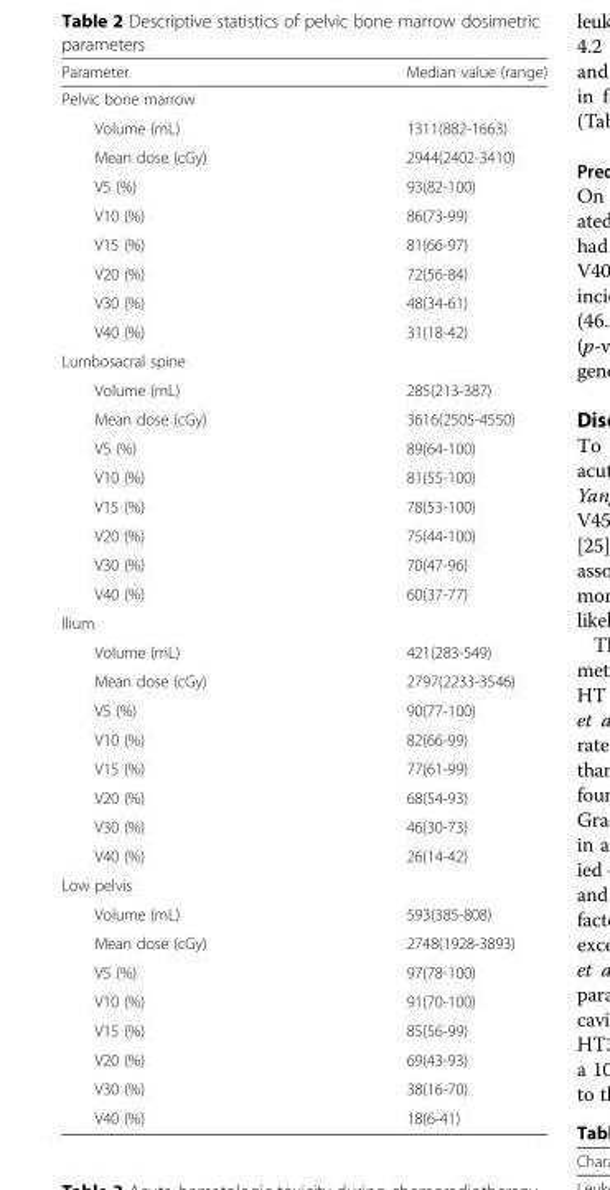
<table><tbody><tr><td>Parameter</td><td>Median value (range)</td></tr><tr><td colspan="2">Pelvic bone marrow</td></tr><tr><td>Volume (mL)</td><td>1311(882-1663)</td></tr><tr><td>Mean dose (cGy)</td><td>2944(2402-3410)</td></tr><tr><td>V5 (%)</td><td>93(82-100)</td></tr><tr><td>V10 (%)</td><td>86(73-99)</td></tr><tr><td>V15 (%)</td><td>81(66-97)</td></tr><tr><td>V20 (%)</td><td>72(56-84)</td></tr><tr><td>V30 (%)</td><td>48(34-61)</td></tr><tr><td>V40 (%)</td><td>31(18-42)</td></tr><tr><td colspan="2">Lumbosacral spine</td></tr><tr><td>Volume (mL)</td><td>285(213-387)</td></tr><tr><td>Mean dose (cGy)</td><td>3616(2505-4550)</td></tr><tr><td>V5 (%)</td><td>89(64-100)</td></tr><tr><td>V10 (%)</td><td>81(55-100)</td></tr><tr><td>V15 (%)</td><td>78(53-100)</td></tr><tr><td>V20 (%)</td><td>75(44-100)</td></tr><tr><td>V30 (%)</td><td>70(47-96)</td></tr><tr><td>V40 (%)</td><td>60(37-77)</td></tr><tr><td colspan="2">Ilium</td></tr><tr><td>Volume (mL)</td><td>421(283-549)</td></tr><tr><td>Mean dose (cGy)</td><td>2797(2233-3546)</td></tr><tr><td>V5 (%)</td><td>90(77-100)</td></tr><tr><td>V10 (%)</td><td>82(66-99)</td></tr><tr><td>V15 (%)</td><td>77(61-99)</td></tr><tr><td>V20 (%)</td><td>68(54-93)</td></tr><tr><td>V30 (%)</td><td>46(30-73)</td></tr><tr><td>V40 (%)</td><td>26(14-42)</td></tr><tr><td colspan="2">Low pelvis</td></tr><tr><td>Volume (mL)</td><td>593(385-808)</td></tr><tr><td>Mean dose (cGy)</td><td>2748(1928-3893)</td></tr><tr><td>V5 (%)</td><td>97(78-100)</td></tr><tr><td>V10 (%)</td><td>91(70-100)</td></tr><tr><td>V15 (%)</td><td>85(56-99)</td></tr><tr><td>V20 (%)</td><td>69(43-93)</td></tr><tr><td>V30 (%)</td><td>38(16-70)</td></tr><tr><td>V40 (%)</td><td>18(6-41)</td></tr></tbody></table>